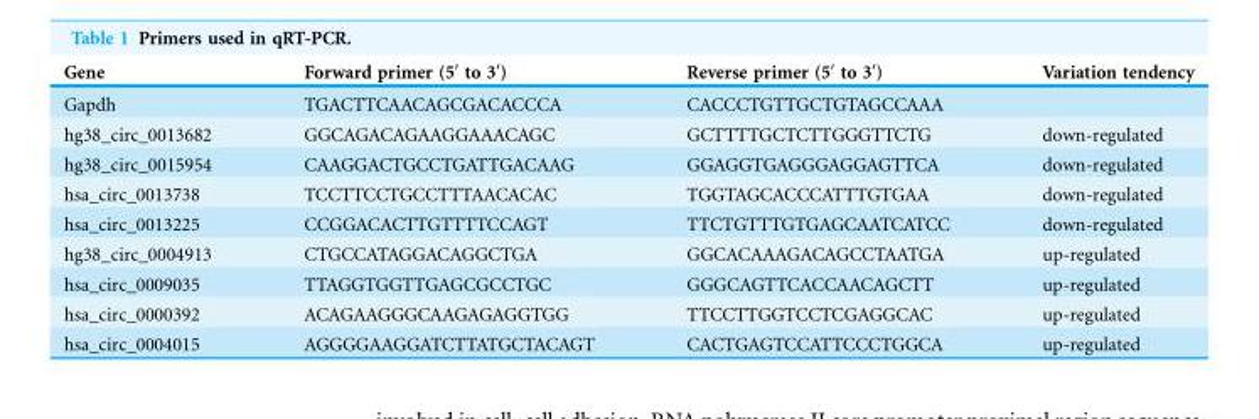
<table><thead><tr><td>Gene</td><td>Forward primer (5′ to 3′)</td><td>Reverse primer (5′ to 3′)</td><td>Variation tendency</td></tr></thead><tbody><tr><td>Gapdh</td><td>TGACTTCAACAGCGACACCCA</td><td>CACCCTGTTGCTGTAGCCAAA</td><td></td></tr><tr><td>hg38_circ_0013682</td><td>GGCAGACAGAAGGAAACAGC</td><td>GCTTTTGCTCTTGGGTTCTG</td><td>down-regulated</td></tr><tr><td>hg38_circ_0015954</td><td>CAAGGACTGCCTGATTGACAAG</td><td>GGAGGTGAGGGAGGAGTTCA</td><td>down-regulated</td></tr><tr><td>hsa_circ_0013738</td><td>TCCTTCCTGCCTTTAACACAC</td><td>TGGTAGCACCCATTTGTGAA</td><td>down-regulated</td></tr><tr><td>hsa_circ_0013225</td><td>CCGGACACTTGTTTTCCAGT</td><td>TTCTGTTTGTGAGCAATCATCC</td><td>down-regulated</td></tr><tr><td>hg38_circ_0004913</td><td>CTGCCATAGGACAGGCTGA</td><td>GGCACAAAGACAGCCTAATGA</td><td>up-regulated</td></tr><tr><td>hsa_circ_0009035</td><td>TTAGGTGGTTGAGCGCCTGC</td><td>GGGCAGTTCACCAACAGCTT</td><td>up-regulated</td></tr><tr><td>hsa_circ_0000392</td><td>ACAGAAGGGCAAGAGAGGTGG</td><td>TTCCTTGGTCCTCGAGGCAC</td><td>up-regulated</td></tr><tr><td>hsa_circ_0004015</td><td>AGGGGAAGGATCTTATGCTACAGT</td><td>CACTGAGTCCATTCCCTGGCA</td><td>up-regulated</td></tr></tbody></table>